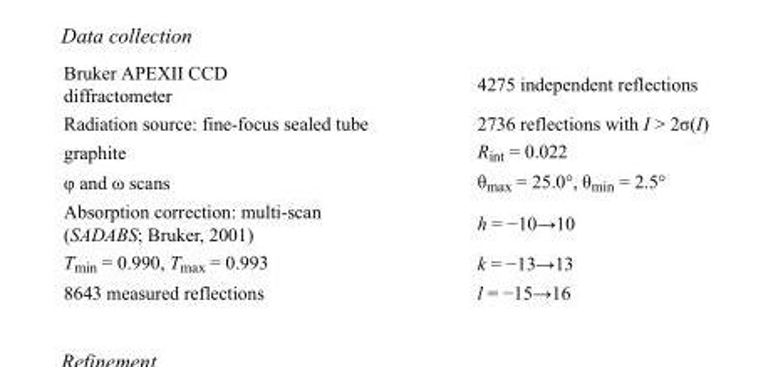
<table><tbody><tr><td>Bruker APEXII CCD diffractometer</td><td>4275 independent reflections</td></tr><tr><td>Radiation source: fine-focus sealed tube</td><td>2736 reflections with I &gt; 2σ(I)</td></tr><tr><td>graphite</td><td>R<sub>int</sub> = 0.022</td></tr><tr><td>φ and ω scans</td><td>θ<sub>max</sub> = 25.0°, θ<sub>min</sub> = 2.5°</td></tr><tr><td>Absorption correction: multi-scan (SADABS; Bruker, 2001)</td><td>h = −10→10</td></tr><tr><td>T<sub>min</sub> = 0.990, T<sub>max</sub> = 0.993</td><td>k = −13→13</td></tr><tr><td>8643 measured reflections</td><td>l = −15→16</td></tr></tbody></table>